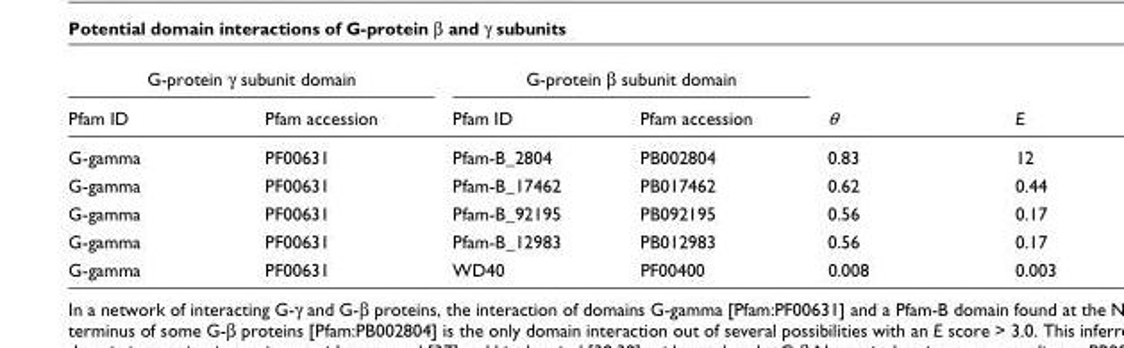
<table><thead><tr><td colspan="2">G-protein γ subunit domain</td><td colspan="2">G-protein β subunit domain</td><td rowspan="2">θ</td><td rowspan="2">E</td></tr><tr><td>Pfam ID</td><td>Pfam accession</td><td>Pfam ID</td><td>Pfam accession</td></tr></thead><tbody><tr><td>G-gamma</td><td>PF00631</td><td>Pfam-B_2804</td><td>PB002804</td><td>0.83</td><td>12</td></tr><tr><td>G-gamma</td><td>PF00631</td><td>Pfam-B_17462</td><td>PB017462</td><td>0.62</td><td>0.44</td></tr><tr><td>G-gamma</td><td>PF00631</td><td>Pfam-B_92195</td><td>PB092195</td><td>0.56</td><td>0.17</td></tr><tr><td>G-gamma</td><td>PF00631</td><td>Pfam-B_12983</td><td>PB012983</td><td>0.56</td><td>0.17</td></tr><tr><td>G-gamma</td><td>PF00631</td><td>WD40</td><td>PF00400</td><td>0.008</td><td>0.003</td></tr></tbody></table>